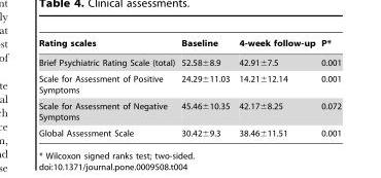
<table><thead><tr><td>Rating scales</td><td>Baseline</td><td>4-week follow-up</td><td>P*</td></tr></thead><tbody><tr><td>Brief Psychiatric Rating Scale (total)</td><td>52.58±8.9</td><td>42.91±7.5</td><td>0.001</td></tr><tr><td>Scale for Assessment of Positive Symptoms</td><td>24.29±11.03</td><td>14.21±12.14</td><td>0.001</td></tr><tr><td>Scale for Assessment of Negative Symptoms</td><td>45.46±10.35</td><td>42.17±8.25</td><td>0.072</td></tr><tr><td>Global Assessment Scale</td><td>30.42±9.3</td><td>38.46±11.51</td><td>0.001</td></tr></tbody></table>